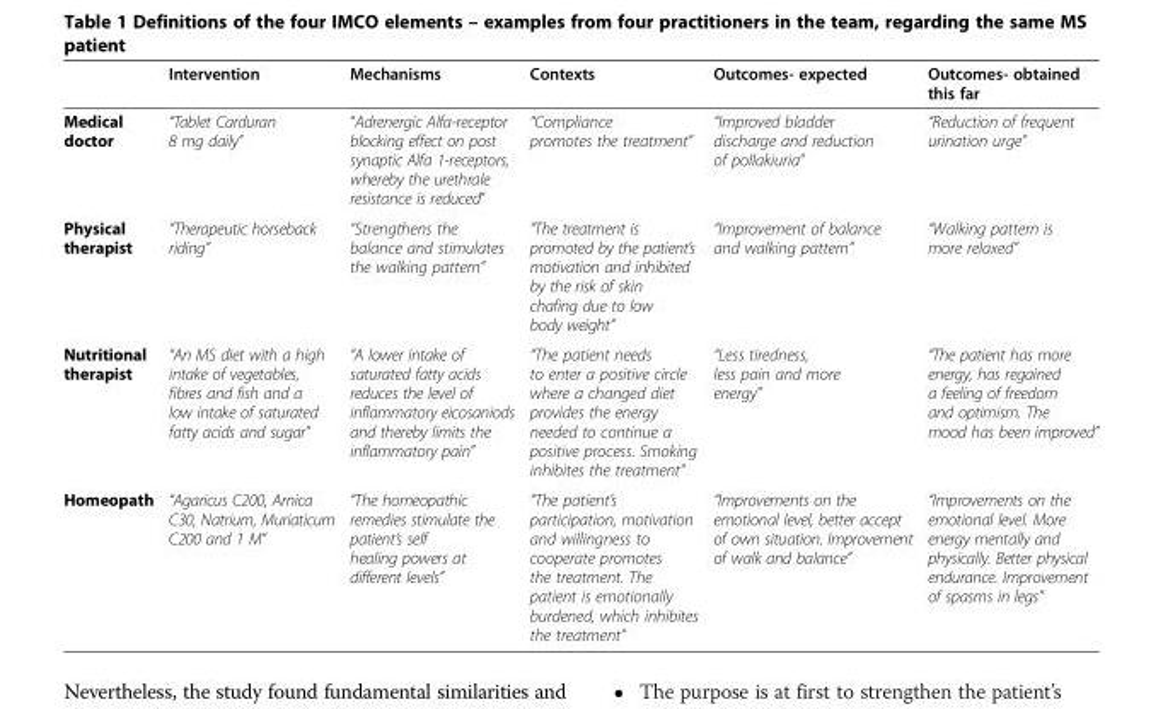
<table><thead><tr><td></td><td>Intervention</td><td>Mechanisms</td><td>Contexts</td><td>Outcomes- expected</td><td>Outcomes- obtained this far</td></tr></thead><tbody><tr><td>Medical doctor</td><td>“Tablet Carduran 8 mg daily”</td><td>“Adrenergic Alfa-receptor blocking effect on post synaptic Alfa 1-receptors, whereby the urethrale resistance is reduced”</td><td>“Compliance promotes the treatment”</td><td>“Improved bladder discharge and reduction of pollakiuria”</td><td>“Reduction of frequent urination urge”</td></tr><tr><td>Physical therapist</td><td>“Therapeutic horseback riding”</td><td>“Strengthens the balance and stimulates the walking pattern”</td><td>“The treatment is promoted by the patient’s motivation and inhibited by the risk of skin chafing due to low body weight”</td><td>“Improvement of balance and walking pattern”</td><td>“Walking pattern is more relaxed”</td></tr><tr><td>Nutritional therapist</td><td>“An MS diet with a high intake of vegetables, fibres and fish and a low intake of saturated fatty acids and sugar”</td><td>“A lower intake of saturated fatty acids reduces the level of inflammatory eicosaniods and thereby limits the inflammatory pain”</td><td>“The patient needs to enter a positive circle where a changed diet provides the energy needed to continue a positive process. Smoking inhibites the treatment”</td><td>“Less tiredness, less pain and more energy”</td><td>“The patient has more energy, has regained a feeling of freedom and optimism. The mood has been improved”</td></tr><tr><td>Homeopath</td><td>“Agaricus C200, Arnica C30, Natrium, Muriaticum C200 and 1 M”</td><td>“The homeopathic remedies stimulate the patient’s self healing powers at different levels”</td><td>“The patient’s participation, motivation and willingness to cooperate promotes the treatment. The patient is emotionally burdened, which inhibites the treatment”</td><td>“Improvements on the emotional level, better accept of own situation. Improvement of walk and balance”</td><td>“Improvements on the emotional level. More energy mentally and physically. Better physical endurance. Improvement of spasms in legs”</td></tr></tbody></table>